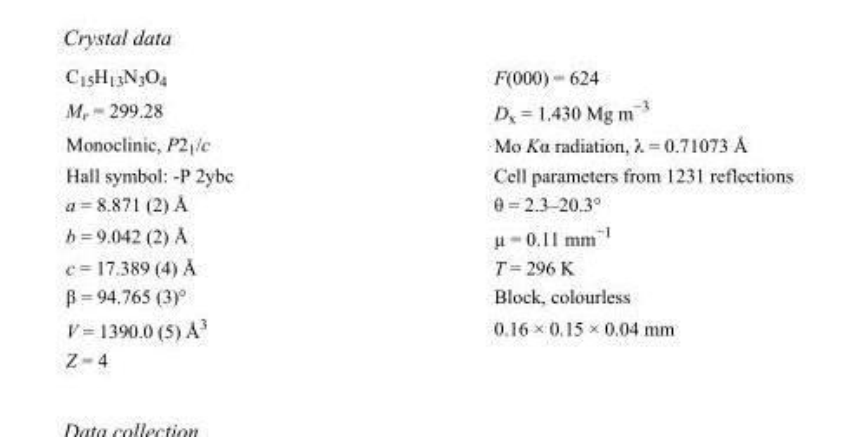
<table><tbody><tr><td>C<sub>15</sub>H<sub>13</sub>N<sub>3</sub>O<sub>4</sub></td><td>F(000) = 624</td></tr><tr><td>M<sub>r</sub> = 299.28</td><td>D<sub>x</sub> = 1.430 Mg m<sup>−3</sup></td></tr><tr><td>Monoclinic, P2<sub>1</sub>/c</td><td>Mo Kα radiation, λ = 0.71073 Å</td></tr><tr><td>Hall symbol: -P 2ybc</td><td>Cell parameters from 1231 reflections</td></tr><tr><td>a = 8.871 (2) Å</td><td>θ = 2.3–20.3°</td></tr><tr><td>b = 9.042 (2) Å</td><td>µ = 0.11 mm<sup>−1</sup></td></tr><tr><td>c = 17.389 (4) Å</td><td>T = 296 K</td></tr><tr><td>β = 94.765 (3)°</td><td>Block, colourless</td></tr><tr><td>V = 1390.0 (5) Å<sup>3</sup></td><td>0.16 × 0.15 × 0.04 mm</td></tr><tr><td>Z = 4</td><td></td></tr></tbody></table>